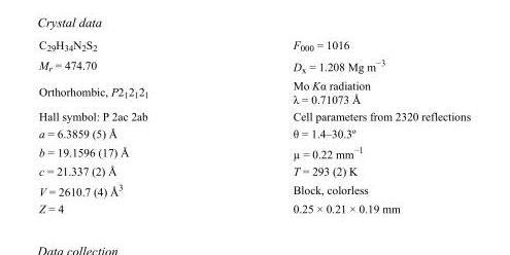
<table><tbody><tr><td>C<sub>29</sub>H<sub>34</sub>N<sub>2</sub>S<sub>2</sub></td><td>F000 = 1016</td></tr><tr><td>M<sub>r</sub> = 474.70</td><td>D<sub>x</sub> = 1.208 Mg m<sup>−3</sup></td></tr><tr><td>Orthorhombic, P2<sub>1</sub>2<sub>1</sub>2<sub>1</sub></td><td>Mo Kα radiation λ = 0.71073 Å</td></tr><tr><td>Hall symbol: P 2ac 2ab</td><td>Cell parameters from 2320 reflections</td></tr><tr><td>a = 6.3859 (5) Å</td><td>θ = 1.4–30.3º</td></tr><tr><td>b = 19.1596 (17) Å</td><td>µ = 0.22 mm<sup>−1</sup></td></tr><tr><td>c = 21.337 (2) Å</td><td>T = 293 (2) K</td></tr><tr><td>V = 2610.7 (4) Å<sup>3</sup></td><td>Block, colorless</td></tr><tr><td>Z = 4</td><td>0.25 × 0.21 × 0.19 mm</td></tr></tbody></table>